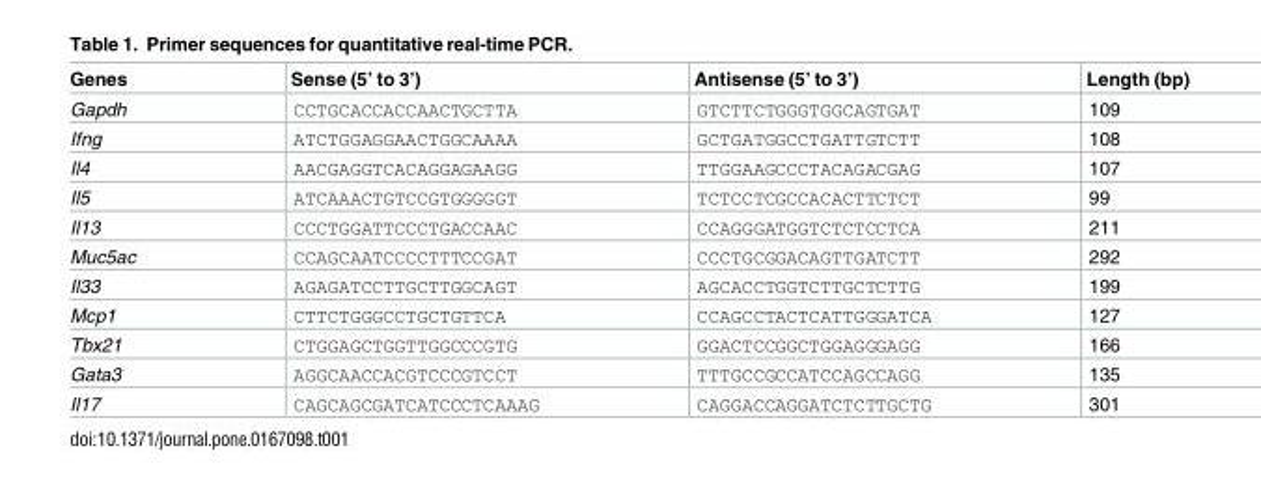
<table><thead><tr><td>Genes</td><td>Sense (5’ to 3’)</td><td>Antisense (5’ to 3’)</td><td>Length (bp)</td></tr></thead><tbody><tr><td>Gapdh</td><td>CCTGCACCACCAACTGCTTA</td><td>GTCTTCTGGGTGGCAGTGAT</td><td>109</td></tr><tr><td>Ifng</td><td>ATCTGGAGGAACTGGCAAAA</td><td>GCTGATGGCCTGATTGTCTT</td><td>108</td></tr><tr><td>Il4</td><td>AACGAGGTCACAGGAGAAGG</td><td>TTGGAAGCCCTACAGACGAG</td><td>107</td></tr><tr><td>Il5</td><td>ATCAAACTGTCCGTGGGGGT</td><td>TCTCCTCGCCACACTTCTCT</td><td>99</td></tr><tr><td>Il13</td><td>CCCTGGATTCCCTGACCAAC</td><td>CCAGGGATGGTCTCTCCTCA</td><td>211</td></tr><tr><td>Muc5ac</td><td>CCAGCAATCCCCTTTCCGAT</td><td>CCCTGCGGACAGTTGATCTT</td><td>292</td></tr><tr><td>Il33</td><td>AGAGATCCTTGCTTGGCAGT</td><td>AGCACCTGGTCTTGCTCTTG</td><td>199</td></tr><tr><td>Mcp1</td><td>CTTCTGGGCCTGCTGTTCA</td><td>CCAGCCTACTCATTGGGATCA</td><td>127</td></tr><tr><td>Tbx21</td><td>CTGGAGCTGGTTGGCCCGTG</td><td>GGACTCCGGCTGGAGGGAGG</td><td>166</td></tr><tr><td>Gata3</td><td>AGGCAACCACGTCCCGTCCT</td><td>TTTGCCGCCATCCAGCCAGG</td><td>135</td></tr><tr><td>Il17</td><td>CAGCAGCGATCATCCCTCAAAG</td><td>CAGGACCAGGATCTCTTGCTG</td><td>301</td></tr></tbody></table>